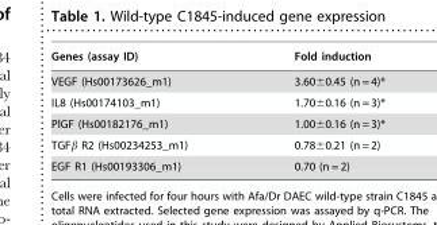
<table><thead><tr><td>Genes (assay ID)</td><td>Fold induction</td></tr></thead><tbody><tr><td>VEGF (Hs00173626_m1)</td><td>3.60±0.45 (n = 4)*</td></tr><tr><td>IL8 (Hs00174103_m1)</td><td>1.70±0.16 (n = 3)*</td></tr><tr><td>PlGF (Hs00182176_m1)</td><td>1.00±0.16 (n = 3)*</td></tr><tr><td>TGFβ R2 (Hs00234253_m1)</td><td>0.78±0.21 (n = 2)</td></tr><tr><td>EGF R1 (Hs00193306_m1)</td><td>0.70 (n = 2)</td></tr></tbody></table>